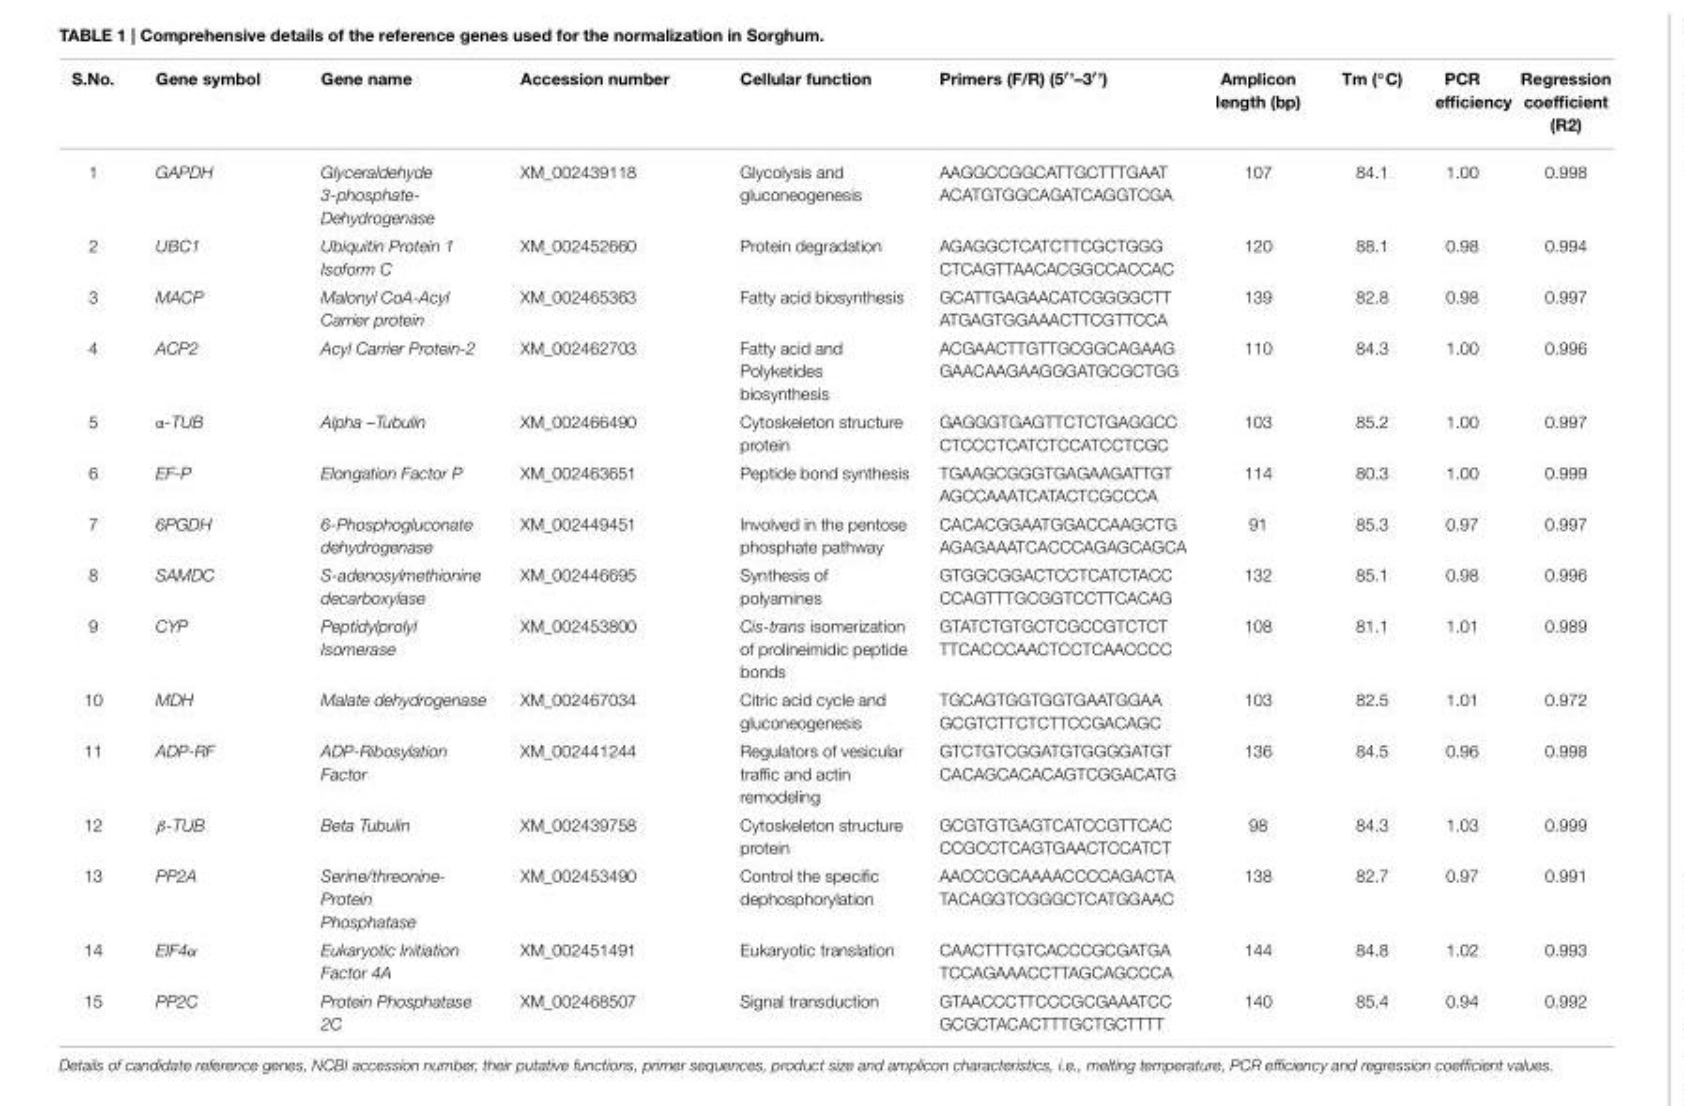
<table><thead><tr><td>S.No.</td><td>Gene symbol</td><td>Gene name</td><td>Accession number</td><td>Cellular function</td><td>Primers (F/R) (5′’–3′’)</td><td>Amplicon length (bp)</td><td>Tm (◦C)</td><td>PCR efficiency</td><td>Regression coefficient (R2)</td></tr></thead><tbody><tr><td>1</td><td>GAPDH</td><td>Glyceraldehyde 3-phosphate- Dehydrogenase</td><td>XM_002439118</td><td>Glycolysis and gluconeogenesis</td><td>AAGGCCGGCATTGCTTTGAAT ACATGTGGCAGATCAGGTCGA</td><td>107</td><td>84.1</td><td>1.00</td><td>0.998</td></tr><tr><td>2</td><td>UBC1</td><td>Ubiquitin Protein 1 Isoform C</td><td>XM_002452660</td><td>Protein degradation</td><td>AGAGGCTCATCTTCGCTGGG CTCAGTTAACACGGCCACCAC</td><td>120</td><td>88.1</td><td>0.98</td><td>0.994</td></tr><tr><td>3</td><td>MACP</td><td>Malonyl CoA-Acyl Carrier protein</td><td>XM_002465363</td><td>Fatty acid biosynthesis</td><td>GCATTGAGAACATCGGGGCTT ATGAGTGGAAACTTCGTTCCA</td><td>139</td><td>82.8</td><td>0.98</td><td>0.997</td></tr><tr><td>4</td><td>ACP2</td><td>Acyl Carrier Protein-2</td><td>XM_002462703</td><td>Fatty acid and Polyketides biosynthesis</td><td>ACGAACTTGTTGCGGCAGAAG GAACAAGAAGGGATGCGCTGG</td><td>110</td><td>84.3</td><td>1.00</td><td>0.996</td></tr><tr><td>5</td><td>α-TUB</td><td>Alpha –Tubulin</td><td>XM_002466490</td><td>Cytoskeleton structure protein</td><td>GAGGGTGAGTTCTCTGAGGCC CTCCCTCATCTCCATCCTCGC</td><td>103</td><td>85.2</td><td>1.00</td><td>0.997</td></tr><tr><td>6</td><td>EF-P</td><td>Elongation Factor P</td><td>XM_002463651</td><td>Peptide bond synthesis</td><td>TGAAGCGGGTGAGAAGATTGT AGCCAAATCATACTCGCCCA</td><td>114</td><td>80.3</td><td>1.00</td><td>0.999</td></tr><tr><td>7</td><td>6PGDH</td><td>6-Phosphogluconate dehydrogenase</td><td>XM_002449451</td><td>Involved in the pentose phosphate pathway</td><td>CACACGGAATGGACCAAGCTG AGAGAAATCACCCAGAGCAGCA</td><td>91</td><td>85.3</td><td>0.97</td><td>0.997</td></tr><tr><td>8</td><td>SAMDC</td><td>S-adenosylmethionine decarboxylase</td><td>XM_002446695</td><td>Synthesis of polyamines</td><td>GTGGCGGACTCCTCATCTACC CCAGTTTGCGGTCCTTCACAG</td><td>132</td><td>85.1</td><td>0.98</td><td>0.996</td></tr><tr><td>9</td><td>CYP</td><td>Peptidylprolyl Isomerase</td><td>XM_002453800</td><td>Cis-trans isomerization of prolineimidic peptide bonds</td><td>GTATCTGTGCTCGCCGTCTCT TTCACCCAACTCCTCAACCCC</td><td>108</td><td>81.1</td><td>1.01</td><td>0.989</td></tr><tr><td>10</td><td>MDH</td><td>Malate dehydrogenase</td><td>XM_002467034</td><td>Citric acid cycle and gluconeogenesis</td><td>TGCAGTGGTGGTGAATGGAA GCGTCTTCTCTTCCGACAGC</td><td>103</td><td>82.5</td><td>1.01</td><td>0.972</td></tr><tr><td>11</td><td>ADP-RF</td><td>ADP-Ribosylation Factor</td><td>XM_002441244</td><td>Regulators of vesicular traffic and actin remodeling</td><td>GTCTGTCGGATGTGGGGATGT CACAGCACACAGTCGGACATG</td><td>136</td><td>84.5</td><td>0.96</td><td>0.998</td></tr><tr><td>12</td><td>β-TUB</td><td>Beta Tubulin</td><td>XM_002439758</td><td>Cytoskeleton structure protein</td><td>GCGTGTGAGTCATCCGTTCAC CCGCCTCAGTGAACTCCATCT</td><td>98</td><td>84.3</td><td>1.03</td><td>0.999</td></tr><tr><td>13</td><td>PP2A</td><td>Serine/threonine- Protein Phosphatase</td><td>XM_002453490</td><td>Control the specific dephosphorylation</td><td>AACCCGCAAAACCCCAGACTA TACAGGTCGGGCTCATGGAAC</td><td>138</td><td>82.7</td><td>0.97</td><td>0.991</td></tr><tr><td>14</td><td>EIF4α</td><td>Eukaryotic Initiation Factor 4A</td><td>XM_002451491</td><td>Eukaryotic translation</td><td>CAACTTTGTCACCCGCGATGA TCCAGAAACCTTAGCAGCCCA</td><td>144</td><td>84.8</td><td>1.02</td><td>0.993</td></tr><tr><td>15</td><td>PP2C</td><td>Protein Phosphatase 2C</td><td>XM_002468507</td><td>Signal transduction</td><td>GTAACCCTTCCCGCGAAATCC GCGCTACACTTTGCTGCTTTT</td><td>140</td><td>85.4</td><td>0.94</td><td>0.992</td></tr></tbody></table>